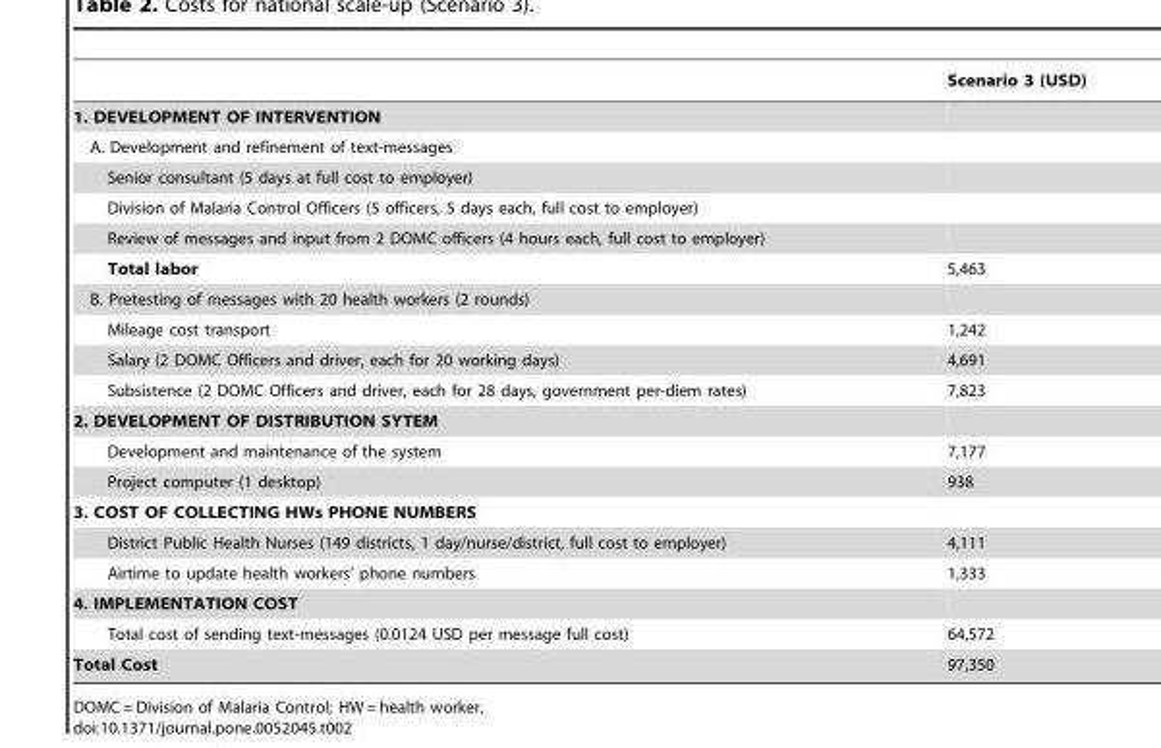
<table><thead><tr><td></td><td>Scenario 3 (USD)</td></tr></thead><tbody><tr><td colspan="2">1. DEVELOPMENT OF INTERVENTION</td></tr><tr><td colspan="2">A. Development and refinement of text-messages</td></tr><tr><td colspan="2">Senior consultant (5 days at full cost to employer)</td></tr><tr><td colspan="2">Division of Malaria Control Officers (5 officers, 5 days each, full cost to employer)</td></tr><tr><td colspan="2">Review of messages and input from 2 DOMC officers (4 hours each, full cost to employer)</td></tr><tr><td>Total labor</td><td>5,463</td></tr><tr><td colspan="2">B. Pretesting of messages with 20 health workers (2 rounds)</td></tr><tr><td>Mileage cost transport</td><td>1,242</td></tr><tr><td>Salary (2 DOMC Officers and driver, each for 20 working days)</td><td>4,691</td></tr><tr><td>Subsistence (2 DOMC Officers and driver, each for 28 days, government per-diem rates)</td><td>7,823</td></tr><tr><td colspan="2">2. DEVELOPMENT OF DISTRIBUTION SYTEM</td></tr><tr><td>Development and maintenance of the system</td><td>7,177</td></tr><tr><td>Project computer (1 desktop)</td><td>938</td></tr><tr><td colspan="2">3. COST OF COLLECTING HWs PHONE NUMBERS</td></tr><tr><td>District Public Health Nurses (149 districts, 1 day/nurse/district, full cost to employer)</td><td>4,111</td></tr><tr><td>Airtime to update health workers’ phone numbers</td><td>1,333</td></tr><tr><td colspan="2">4. IMPLEMENTATION COST</td></tr><tr><td>Total cost of sending text-messages (0.0124 USD per message full cost)</td><td>64,572</td></tr><tr><td>Total Cost</td><td>97,350</td></tr></tbody></table>